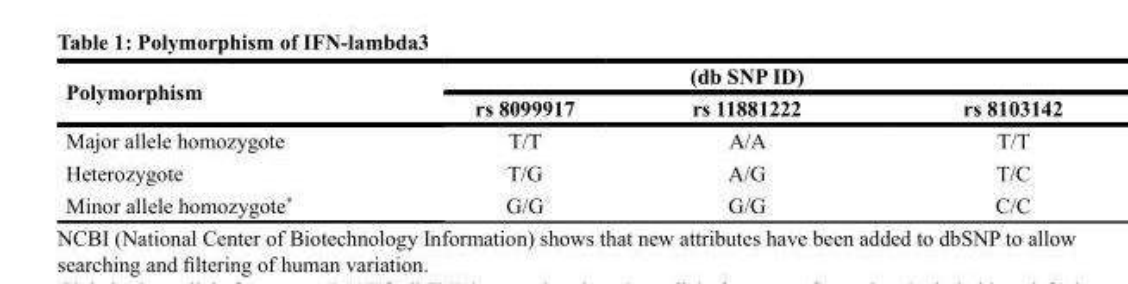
<table><thead><tr><td rowspan="2">Polymorphism</td><td rowspan="2">rs 8099917</td><td rowspan="2">(db SNP ID) rs 11881222</td><td rowspan="2">rs 8103142</td></tr><tr></tr></thead><tbody><tr><td>Major allele homozygote</td><td>T/T</td><td>A/A</td><td>T/T</td></tr><tr><td>Heterozygote</td><td>T/G</td><td>A/G</td><td>T/C</td></tr><tr><td>Minor allele homozygote*</td><td>G/G</td><td>G/G</td><td>C/C</td></tr></tbody></table>